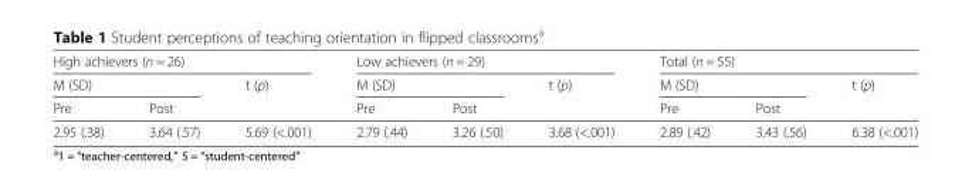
<table><thead><tr><td colspan="3">High achievers (n = 26)</td><td colspan="3">Low achievers (n = 29)</td><td colspan="3">Total (n = 55)</td></tr><tr><td colspan="2">M (SD)</td><td rowspan="2">t (p)</td><td colspan="2">M (SD)</td><td rowspan="2">t (p)</td><td colspan="2">M (SD)</td><td rowspan="2">t (p)</td></tr><tr><td>Pre</td><td>Post</td><td>Pre</td><td>Post</td><td>Pre</td><td>Post</td></tr></thead><tbody><tr><td>2.95 (.38)</td><td>3.64 (.57)</td><td>5.69 (&lt;.001)</td><td>2.79 (.44)</td><td>3.26 (.50)</td><td>3.68 (&lt;.001)</td><td>2.89 (.42)</td><td>3.43 (.56)</td><td>6.38 (&lt;.001)</td></tr></tbody></table>